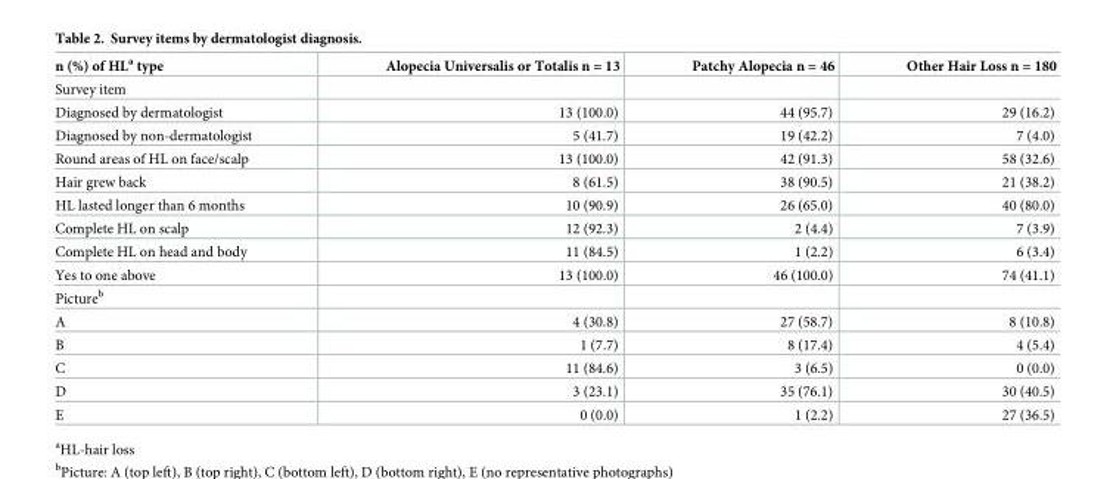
<table><thead><tr><td>n (%) of HL<sup>a</sup> type</td><td>Alopecia Universalis or Totalis n = 13</td><td>Patchy Alopecia n = 46</td><td>Other Hair Loss n = 180</td></tr></thead><tbody><tr><td colspan="4">Survey item</td></tr><tr><td>Diagnosed by dermatologist</td><td>13 (100.0)</td><td>44 (95.7)</td><td>29 (16.2)</td></tr><tr><td>Diagnosed by non-dermatologist</td><td>5 (41.7)</td><td>19 (42.2)</td><td>7 (4.0)</td></tr><tr><td>Round areas of HL on face/scalp</td><td>13 (100.0)</td><td>42 (91.3)</td><td>58 (32.6)</td></tr><tr><td>Hair grew back</td><td>8 (61.5)</td><td>38 (90.5)</td><td>21 (38.2)</td></tr><tr><td>HL lasted longer than 6 months</td><td>10 (90.9)</td><td>26 (65.0)</td><td>40 (80.0)</td></tr><tr><td>Complete HL on scalp</td><td>12 (92.3)</td><td>2 (4.4)</td><td>7 (3.9)</td></tr><tr><td>Complete HL on head and body</td><td>11 (84.5)</td><td>1 (2.2)</td><td>6 (3.4)</td></tr><tr><td>Yes to one above</td><td>13 (100.0)</td><td>46 (100.0)</td><td>74 (41.1)</td></tr><tr><td colspan="4">Picture<sup>b</sup></td></tr><tr><td>A</td><td>4 (30.8)</td><td>27 (58.7)</td><td>8 (10.8)</td></tr><tr><td>B</td><td>1 (7.7)</td><td>8 (17.4)</td><td>4 (5.4)</td></tr><tr><td>C</td><td>11 (84.6)</td><td>3 (6.5)</td><td>0 (0.0)</td></tr><tr><td>D</td><td>3 (23.1)</td><td>35 (76.1)</td><td>30 (40.5)</td></tr><tr><td>E</td><td>0 (0.0)</td><td>1 (2.2)</td><td>27 (36.5)</td></tr></tbody></table>